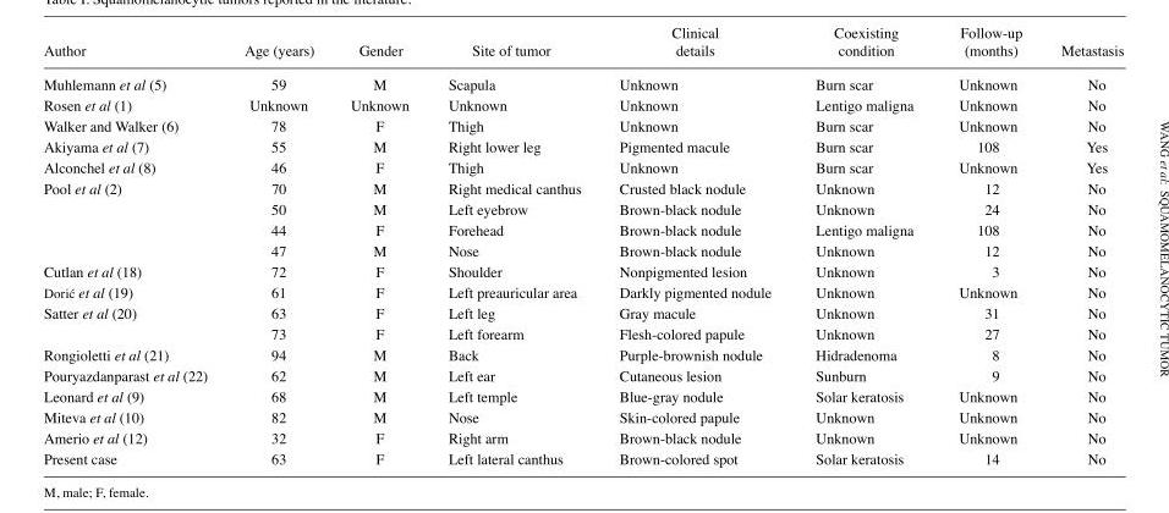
<table><thead><tr><td>Author</td><td>Age (years)</td><td>Gender</td><td>Site of tumor</td><td>details</td><td>condition</td><td>(months)</td><td>Metastasis</td></tr></thead><tbody><tr><td>Muhlemann et al (5)</td><td>59</td><td>M</td><td>Scapula</td><td>Unknown</td><td>Burn scar</td><td>Unknown</td><td>No</td></tr><tr><td>Rosen et al (1)</td><td>Unknown</td><td>Unknown</td><td>Unknown</td><td>Unknown</td><td>Lentigo maligna</td><td>Unknown</td><td>No</td></tr><tr><td>Walker and Walker (6)</td><td>78</td><td>F</td><td>Thigh</td><td>Unknown</td><td>Burn scar</td><td>Unknown</td><td>No</td></tr><tr><td>Akiyama et al (7)</td><td>55</td><td>M</td><td>Right lower leg</td><td>Pigmented macule</td><td>Burn scar</td><td>108</td><td>Yes</td></tr><tr><td>Alconchel et al (8)</td><td>46</td><td>F</td><td>Thigh</td><td>Unknown</td><td>Burn scar</td><td>Unknown</td><td>Yes</td></tr><tr><td rowspan="4">Pool et al (2)</td><td>70</td><td>M</td><td>Right medical canthus</td><td>Crusted black nodule</td><td>Unknown</td><td>12</td><td>No</td></tr><tr><td>50</td><td>M</td><td>Left eyebrow</td><td>Brown-black nodule</td><td>Unknown</td><td>24</td><td>No</td></tr><tr><td>44</td><td>F</td><td>Forehead</td><td>Brown-black nodule</td><td>Lentigo maligna</td><td>108</td><td>No</td></tr><tr><td>47</td><td>M</td><td>Nose</td><td>Brown-black nodule</td><td>Unknown</td><td>12</td><td>No</td></tr><tr><td>Cutlan et al (18)</td><td>72</td><td>F</td><td>Shoulder</td><td>Nonpigmented lesion</td><td>Unknown</td><td>3</td><td>No</td></tr><tr><td>Dorić et al (19)</td><td>61</td><td>F</td><td>Left preauricular area</td><td>Darkly pigmented nodule</td><td>Unknown</td><td>Unknown</td><td>No</td></tr><tr><td rowspan="2">Satter et al (20)</td><td>63</td><td>F</td><td>Left leg</td><td>Gray macule</td><td>Unknown</td><td>31</td><td>No</td></tr><tr><td>73</td><td>F</td><td>Left forearm</td><td>Flesh-colored papule</td><td>Unknown</td><td>27</td><td>No</td></tr><tr><td>Rongioletti et al (21)</td><td>94</td><td>M</td><td>Back</td><td>Purple-brownish nodule</td><td>Hidradenoma</td><td>8</td><td>No</td></tr><tr><td>Pouryazdanparast et al (22)</td><td>62</td><td>M</td><td>Left ear</td><td>Cutaneous lesion</td><td>Sunburn</td><td>9</td><td>No</td></tr><tr><td>Leonard et al (9)</td><td>68</td><td>M</td><td>Left temple</td><td>Blue-gray nodule</td><td>Solar keratosis</td><td>Unknown</td><td>No</td></tr><tr><td>Miteva et al (10)</td><td>82</td><td>M</td><td>Nose</td><td>Skin-colored papule</td><td>Unknown</td><td>Unknown</td><td>No</td></tr><tr><td>Amerio et al (12)</td><td>32</td><td>F</td><td>Right arm</td><td>Brown-black nodule</td><td>Unknown</td><td>Unknown</td><td>No</td></tr><tr><td>Present case</td><td>63</td><td>F</td><td>Left lateral canthus</td><td>Brown-colored spot</td><td>Solar keratosis</td><td>14</td><td>No</td></tr></tbody></table>